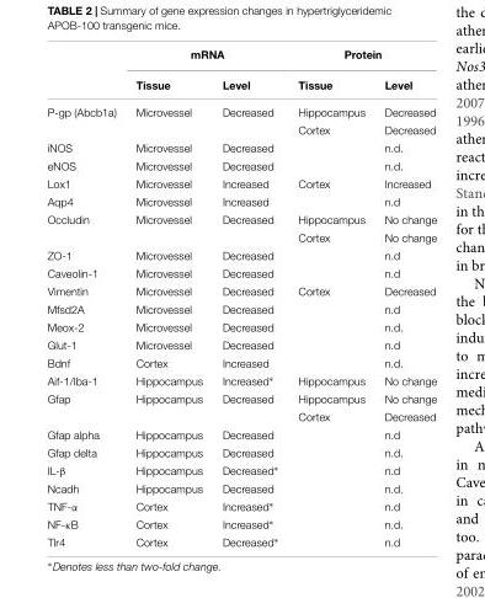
<table><thead><tr><td rowspan="2"></td><td colspan="2">mRNA</td><td colspan="2">Protein</td></tr><tr><td>Tissue</td><td>Level</td><td>Tissue</td><td>Level</td></tr></thead><tbody><tr><td rowspan="2">P-gp (Abcb1a)</td><td>Microvessel</td><td>Decreased</td><td>Hippocampus</td><td>Decreased</td></tr><tr><td></td><td></td><td>Cortex</td><td>Decreased</td></tr><tr><td>iNOS</td><td>Microvessel</td><td>Decreased</td><td></td><td>n.d.</td></tr><tr><td>eNOS</td><td>Microvessel</td><td>Decreased</td><td></td><td>n.d.</td></tr><tr><td>Lox1</td><td>Microvessel</td><td>Increased</td><td>Cortex</td><td>Increased</td></tr><tr><td>Aqp4</td><td>Microvessel</td><td>Increased</td><td></td><td>n.d</td></tr><tr><td rowspan="2">Occludin</td><td>Microvessel</td><td>Decreased</td><td>Hippocampus</td><td>No change</td></tr><tr><td></td><td></td><td>Cortex</td><td>No change</td></tr><tr><td>ZO-1</td><td>Microvessel</td><td>Decreased</td><td></td><td>n.d</td></tr><tr><td>Caveolin-1</td><td>Microvessel</td><td>Decreased</td><td></td><td>n.d</td></tr><tr><td>Vimentin</td><td>Microvessel</td><td>Decreased</td><td>Cortex</td><td>Decreased</td></tr><tr><td>Mfsd2A</td><td>Microvessel</td><td>Decreased</td><td></td><td>n.d</td></tr><tr><td>Meox-2</td><td>Microvessel</td><td>Decreased</td><td></td><td>n.d.</td></tr><tr><td>Glut-1</td><td>Microvessel</td><td>Decreased</td><td></td><td>n.d</td></tr><tr><td>Bdnf</td><td>Cortex</td><td>Increased</td><td></td><td>n.d.</td></tr><tr><td>Aif-1/Iba-1</td><td>Hippocampus</td><td>Increased∗</td><td>Hippocampus</td><td>No change</td></tr><tr><td rowspan="2">Gfap</td><td>Hippocampus</td><td>Decreased</td><td>Hippocampus</td><td>No change</td></tr><tr><td></td><td></td><td>Cortex</td><td>Decreased</td></tr><tr><td>Gfap alpha</td><td>Hippocampus</td><td>Decreased</td><td></td><td>n.d</td></tr><tr><td>Gfap delta</td><td>Hippocampus</td><td>Decreased</td><td></td><td>n.d.</td></tr><tr><td>IL-β</td><td>Hippocampus</td><td>Decreased∗</td><td></td><td>n.d</td></tr><tr><td>Ncadh</td><td>Hippocampus</td><td>Decreased</td><td></td><td>n.d.</td></tr><tr><td>TNF-α</td><td>Cortex</td><td>Increased∗</td><td></td><td>n.d</td></tr><tr><td>NF-κB</td><td>Cortex</td><td>Increased∗</td><td></td><td>n.d.</td></tr><tr><td>Tlr4</td><td>Cortex</td><td>Decreased∗</td><td></td><td>n.d</td></tr></tbody></table>